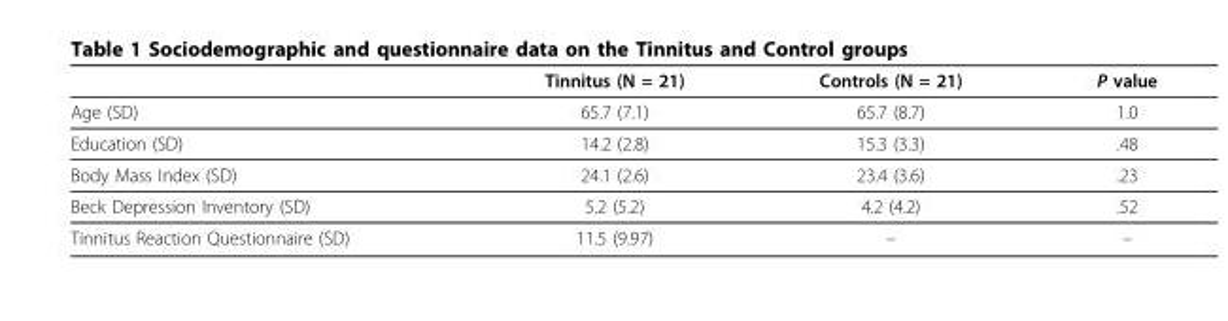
<table><thead><tr><td></td><td>Tinnitus (N = 21)</td><td>Controls (N = 21)</td><td>P value</td></tr></thead><tbody><tr><td>Age (SD)</td><td>65.7 (7.1)</td><td>65.7 (8.7)</td><td>1.0</td></tr><tr><td>Education (SD)</td><td>14.2 (2.8)</td><td>15.3 (3.3)</td><td>.48</td></tr><tr><td>Body Mass Index (SD)</td><td>24.1 (2.6)</td><td>23.4 (3.6)</td><td>.23</td></tr><tr><td>Beck Depression Inventory (SD)</td><td>5.2 (5.2)</td><td>4.2 (4.2)</td><td>.52</td></tr><tr><td>Tinnitus Reaction Questionnaire (SD)</td><td>11.5 (9.97)</td><td>–</td><td>–</td></tr></tbody></table>